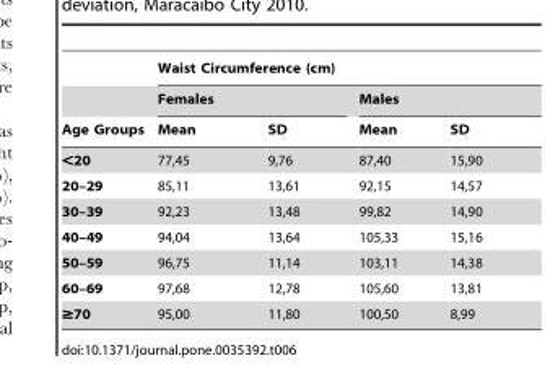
<table><thead><tr><td rowspan="3">Age Groups</td><td colspan="4">Waist Circumference (cm)</td></tr><tr><td colspan="2">Females</td><td colspan="2">Males</td></tr><tr><td>Mean</td><td>SD</td><td>Mean</td><td>SD</td></tr></thead><tbody><tr><td>&lt;20</td><td>77,45</td><td>9,76</td><td>87,40</td><td>15,90</td></tr><tr><td>20–29</td><td>85,11</td><td>13,61</td><td>92,15</td><td>14,57</td></tr><tr><td>30–39</td><td>92,23</td><td>13,48</td><td>99,82</td><td>14,90</td></tr><tr><td>40–49</td><td>94,04</td><td>13,64</td><td>105,33</td><td>15,16</td></tr><tr><td>50–59</td><td>96,75</td><td>11,14</td><td>103,11</td><td>14,38</td></tr><tr><td>60–69</td><td>97,68</td><td>12,78</td><td>105,60</td><td>13,81</td></tr><tr><td>≥70</td><td>95,00</td><td>11,80</td><td>100,50</td><td>8,99</td></tr></tbody></table>